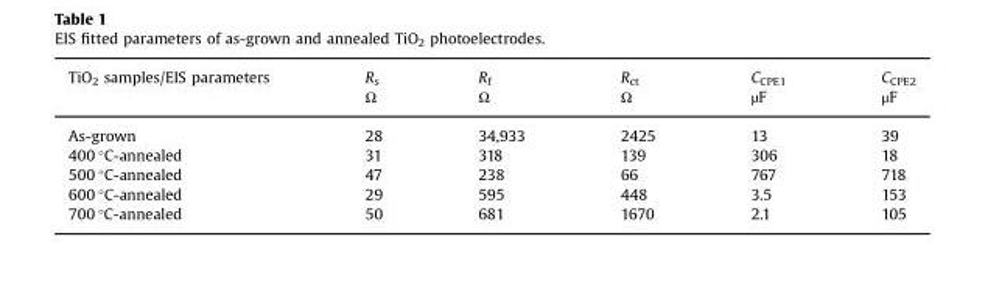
<table><thead><tr><td rowspan="2">TiO<sub>2</sub> samples/EIS parameters</td><td rowspan="2">R<sub>s</sub> Ω</td><td rowspan="2">R<sub>f</sub> Ω</td><td rowspan="2">R<sub>ct</sub> Ω</td><td rowspan="2">CCPE1 µF</td><td rowspan="2">CCPE2 μF</td></tr><tr></tr></thead><tbody><tr><td>As-grown</td><td>28</td><td>34,933</td><td>2425</td><td>13</td><td>39</td></tr><tr><td>400 °C-annealed</td><td>31</td><td>318</td><td>139</td><td>306</td><td>18</td></tr><tr><td>500 °C-annealed</td><td>47</td><td>238</td><td>66</td><td>767</td><td>718</td></tr><tr><td>600 °C-annealed</td><td>29</td><td>595</td><td>448</td><td>3.5</td><td>153</td></tr><tr><td>700 °C-annealed</td><td>50</td><td>681</td><td>1670</td><td>2.1</td><td>105</td></tr></tbody></table>